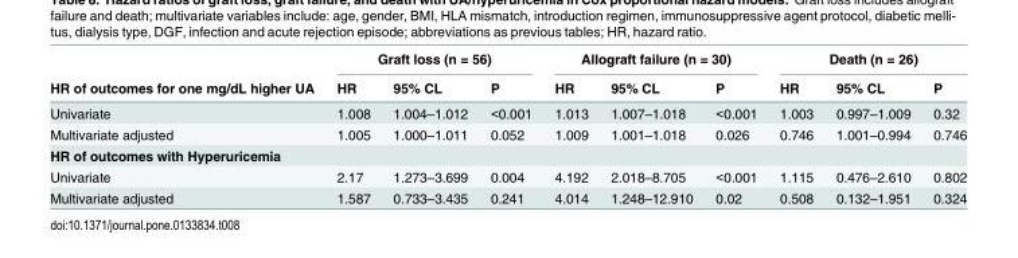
<table><thead><tr><td rowspan="2">HR of outcomes for one mg/dL higher UA</td><td colspan="3">Graft loss (n = 56)</td><td colspan="3">Allograft failure (n = 30)</td><td colspan="3">Death (n = 26)</td></tr><tr><td>HR</td><td>95% CL</td><td>P</td><td>HR</td><td>95% CL</td><td>P</td><td>HR</td><td>95% CL</td><td>P</td></tr></thead><tbody><tr><td>Univariate</td><td>1.008</td><td>1.004–1.012</td><td>&lt;0.001</td><td>1.013</td><td>1.007–1.018</td><td>&lt;0.001</td><td>1.003</td><td>0.997–1.009</td><td>0.32</td></tr><tr><td>Multivariate adjusted</td><td>1.005</td><td>1.000–1.011</td><td>0.052</td><td>1.009</td><td>1.001–1.018</td><td>0.026</td><td>0.746</td><td>1.001–0.994</td><td>0.746</td></tr><tr><td colspan="10">HR of outcomes with Hyperuricemia</td></tr><tr><td>Univariate</td><td>2.17</td><td>1.273–3.699</td><td>0.004</td><td>4.192</td><td>2.018–8.705</td><td>&lt;0.001</td><td>1.115</td><td>0.476–2.610</td><td>0.802</td></tr><tr><td>Multivariate adjusted</td><td>1.587</td><td>0.733–3.435</td><td>0.241</td><td>4.014</td><td>1.248–12.910</td><td>0.02</td><td>0.508</td><td>0.132–1.951</td><td>0.324</td></tr></tbody></table>